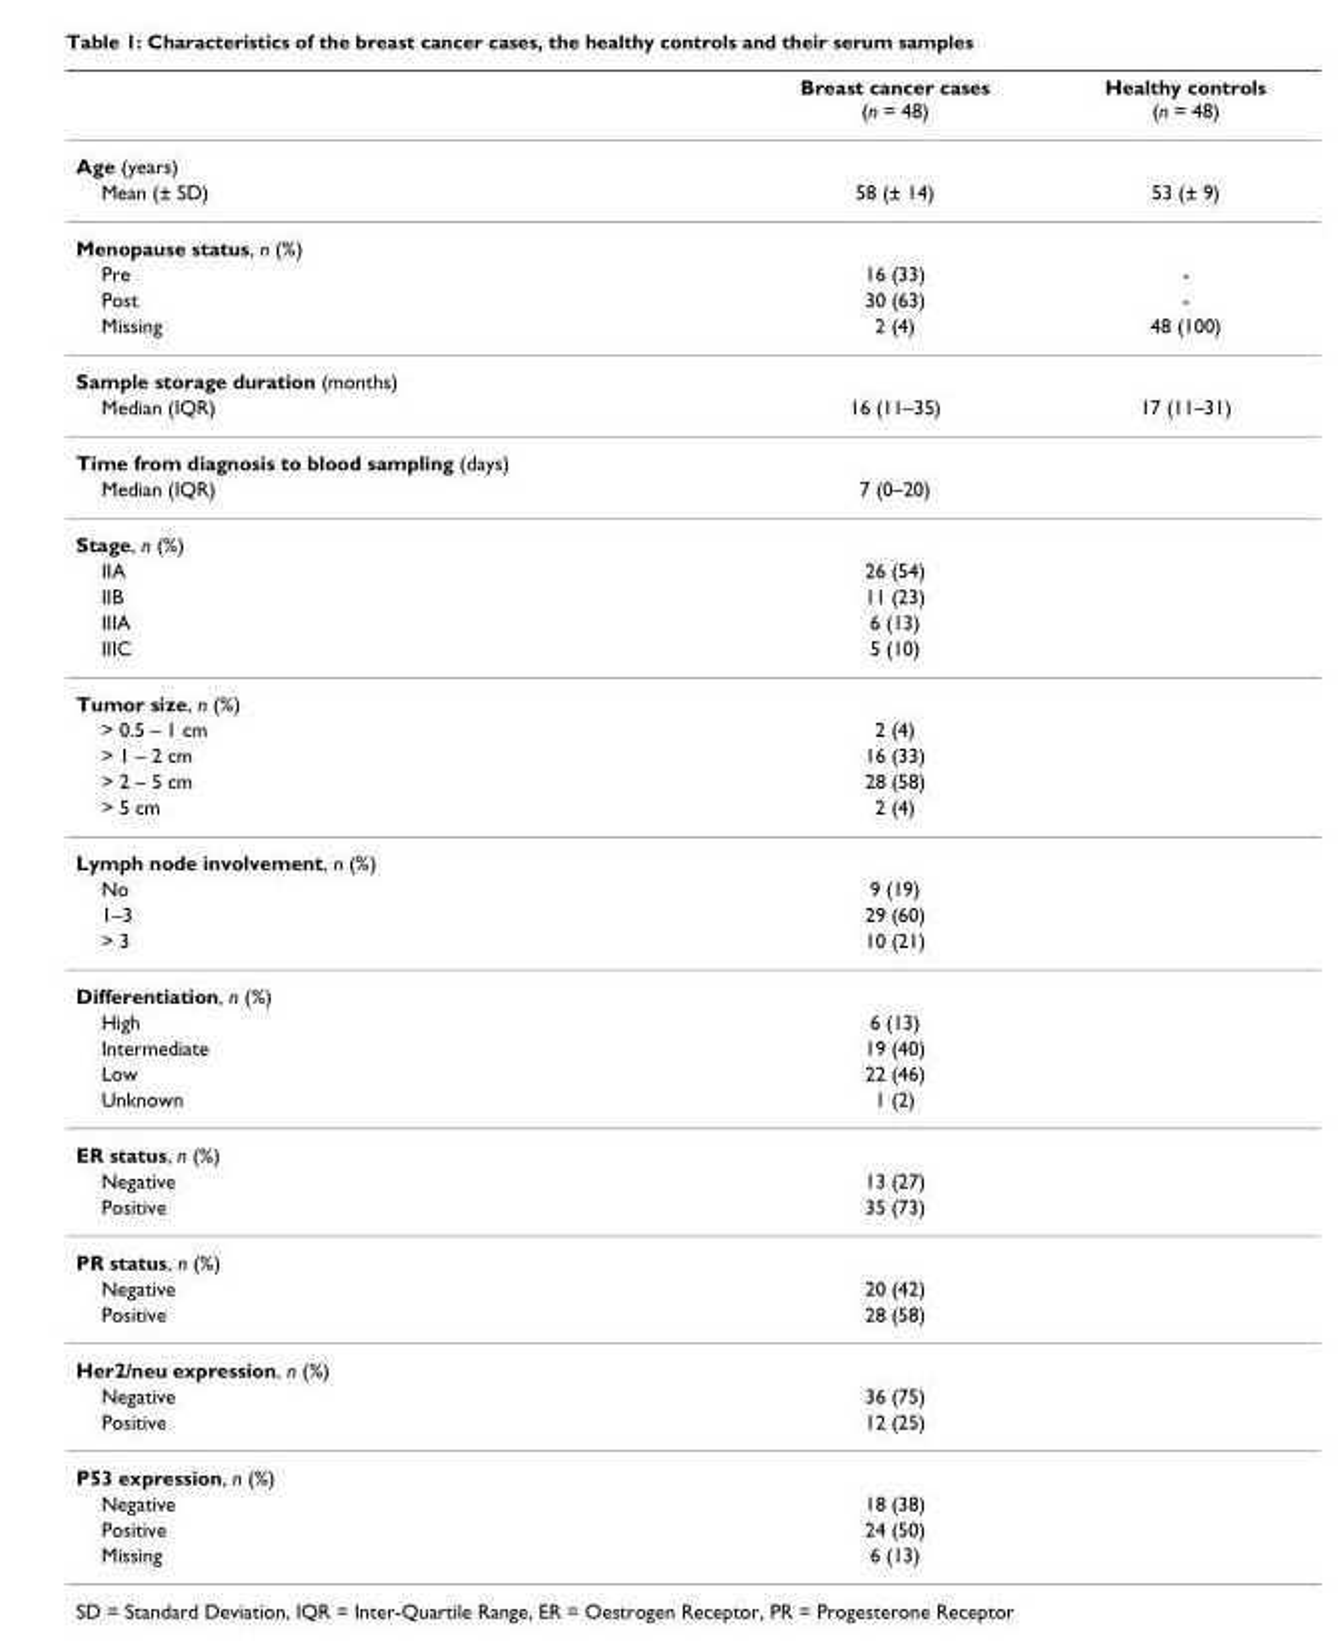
<table><thead><tr><td></td><td>Breast cancer cases (n = 48)</td><td>Healthy controls (n = 48)</td></tr></thead><tbody><tr><td colspan="3">Age (years)</td></tr><tr><td>Mean (± SD)</td><td>58 (± 14)</td><td>53 (± 9)</td></tr><tr><td colspan="3">Menopause status, n (%)</td></tr><tr><td>Pre</td><td>16 (33)</td><td>-</td></tr><tr><td>Post</td><td>30 (63)</td><td>-</td></tr><tr><td>Missing</td><td>2 (4)</td><td>48 (100)</td></tr><tr><td colspan="3">Sample storage duration (months)</td></tr><tr><td>Median (IQR)</td><td>16 (11–35)</td><td>17 (11–31)</td></tr><tr><td colspan="3">Time from diagnosis to blood sampling (days)</td></tr><tr><td>Median (IQR)</td><td>7 (0–20)</td><td></td></tr><tr><td colspan="3">Stage, n (%)</td></tr><tr><td>IIA</td><td>26 (54)</td><td></td></tr><tr><td>IIB</td><td>11 (23)</td><td></td></tr><tr><td>IIIA</td><td>6 (13)</td><td></td></tr><tr><td>IIIC</td><td>5 (10)</td><td></td></tr><tr><td colspan="3">Tumor size, n (%)</td></tr><tr><td>&gt; 0.5 – 1 cm</td><td>2 (4)</td><td></td></tr><tr><td>&gt; 1 – 2 cm</td><td>16 (33)</td><td></td></tr><tr><td>&gt; 2 – 5 cm</td><td>28 (58)</td><td></td></tr><tr><td>&gt; 5 cm</td><td>2 (4)</td><td></td></tr><tr><td colspan="3">Lymph node involvement, n (%)</td></tr><tr><td>No</td><td>9 (19)</td><td></td></tr><tr><td>1–3</td><td>29 (60)</td><td></td></tr><tr><td>&gt; 3</td><td>10 (21)</td><td></td></tr><tr><td colspan="3">Differentiation, n (%)</td></tr><tr><td>High</td><td>6 (13)</td><td></td></tr><tr><td>Intermediate</td><td>19 (40)</td><td></td></tr><tr><td>Low</td><td>22 (46)</td><td></td></tr><tr><td>Unknown</td><td>1 (2)</td><td></td></tr><tr><td colspan="3">ER status, n (%)</td></tr><tr><td>Negative</td><td>13 (27)</td><td></td></tr><tr><td>Positive</td><td>35 (73)</td><td></td></tr><tr><td colspan="3">PR status, n (%)</td></tr><tr><td>Negative</td><td>20 (42)</td><td></td></tr><tr><td>Positive</td><td>28 (58)</td><td></td></tr><tr><td colspan="3">Her2/neu expression, n (%)</td></tr><tr><td>Negative</td><td>36 (75)</td><td></td></tr><tr><td>Positive</td><td>12 (25)</td><td></td></tr><tr><td colspan="3">P53 expression, n (%)</td></tr><tr><td>Negative</td><td>18 (38)</td><td></td></tr><tr><td>Positive</td><td>24 (50)</td><td></td></tr><tr><td>Missing</td><td>6 (13)</td><td></td></tr></tbody></table>